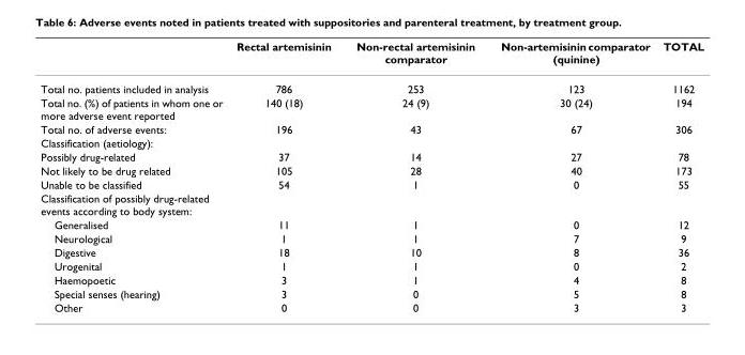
<table><thead><tr><td></td><td>Rectal artemisinin</td><td>Non-rectal artemisinin comparator</td><td>Non-artemisinin comparator (quinine)</td><td>TOTAL</td></tr></thead><tbody><tr><td>Total no. patients included in analysis</td><td>786</td><td>253</td><td>123</td><td>1162</td></tr><tr><td>Total no. (%) of patients in whom one or more adverse event reported</td><td>140 (18)</td><td>24 (9)</td><td>30 (24)</td><td>194</td></tr><tr><td>Total no. of adverse events:</td><td>196</td><td>43</td><td>67</td><td>306</td></tr><tr><td colspan="5">Classification (aetiology):</td></tr><tr><td>Possibly drug-related</td><td>37</td><td>14</td><td>27</td><td>78</td></tr><tr><td>Not likely to be drug related</td><td>105</td><td>28</td><td>40</td><td>173</td></tr><tr><td>Unable to be classified</td><td>54</td><td>1</td><td>0</td><td>55</td></tr><tr><td colspan="5">Classification of possibly drug-related events according to body system:</td></tr><tr><td>Generalised</td><td>11</td><td>1</td><td>0</td><td>12</td></tr><tr><td>Neurological</td><td>1</td><td>1</td><td>7</td><td>9</td></tr><tr><td>Digestive</td><td>18</td><td>10</td><td>8</td><td>36</td></tr><tr><td>Urogenital</td><td>1</td><td>1</td><td>0</td><td>2</td></tr><tr><td>Haemopoetic</td><td>3</td><td>1</td><td>4</td><td>8</td></tr><tr><td>Special senses (hearing)</td><td>3</td><td>0</td><td>5</td><td>8</td></tr><tr><td>Other</td><td>0</td><td>0</td><td>3</td><td>3</td></tr></tbody></table>